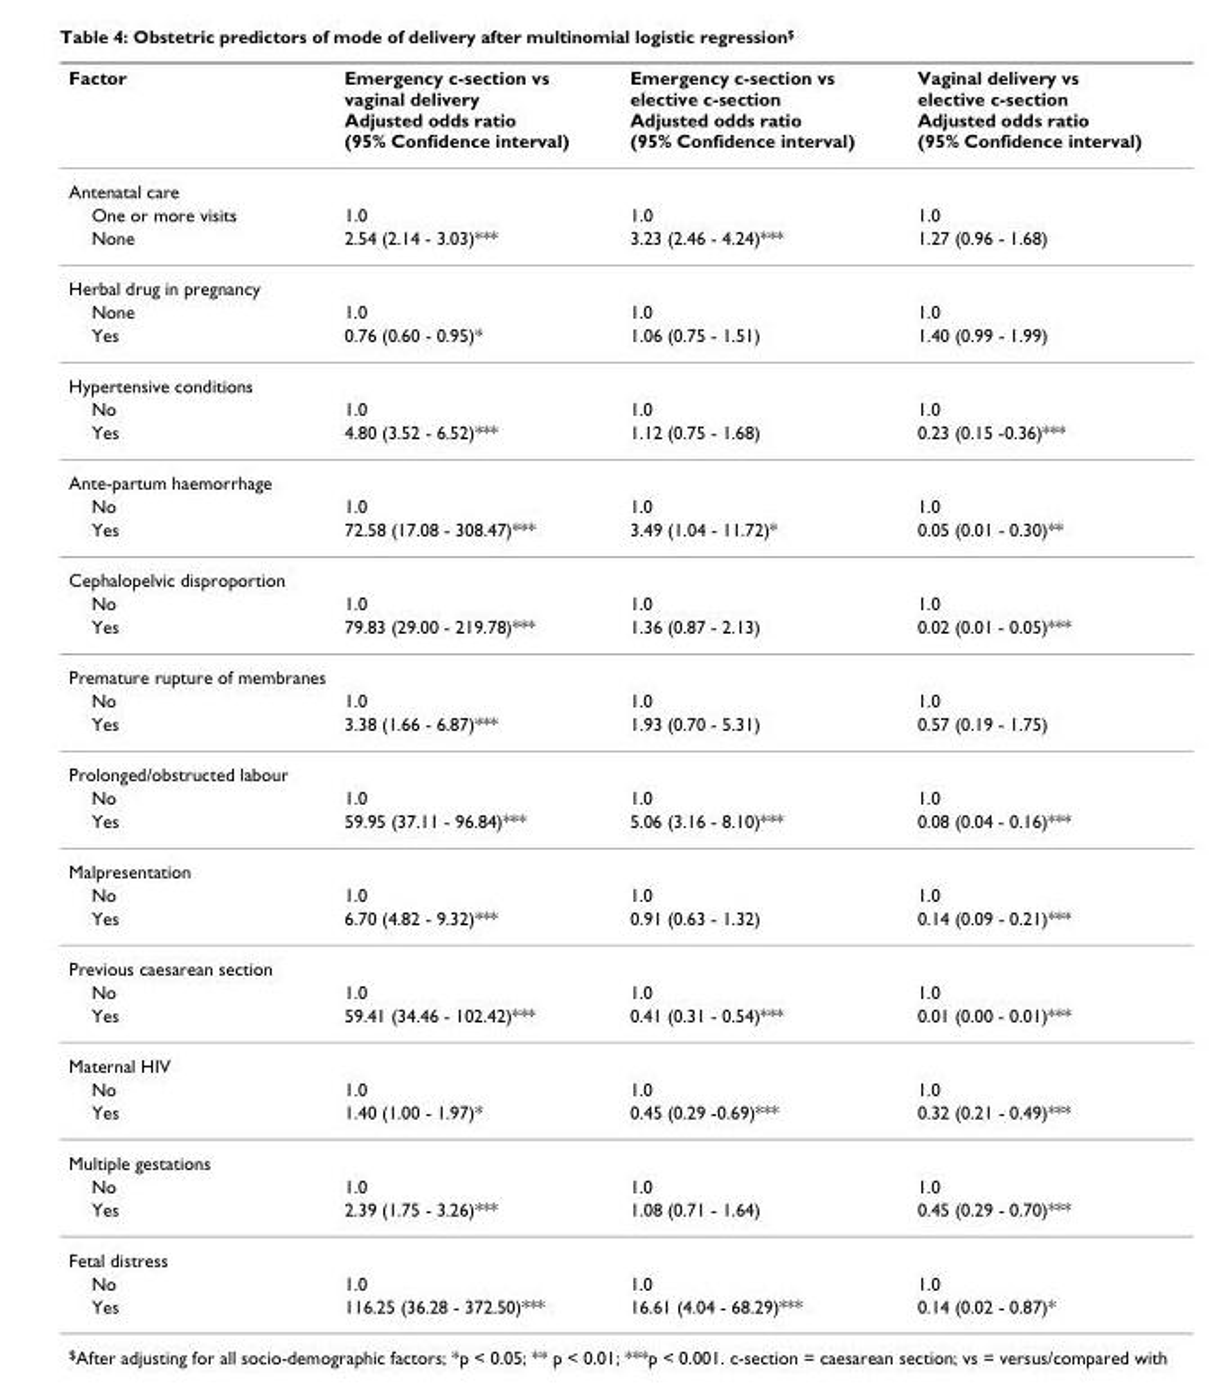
<table><thead><tr><td>Factor</td><td>Emergency c-section vs vaginal delivery Adjusted odds ratio (95% Confidence interval)</td><td>Emergency c-section vs elective c-section Adjusted odds ratio (95% Confidence interval)</td><td>Vaginal delivery vs elective c-section Adjusted odds ratio (95% Confidence interval)</td></tr></thead><tbody><tr><td colspan="4">Antenatal care</td></tr><tr><td>One or more visits</td><td>1.0</td><td>1.0</td><td>1.0</td></tr><tr><td>None</td><td>2.54 (2.14 - 3.03)***</td><td>3.23 (2.46 - 4.24)***</td><td>1.27 (0.96 - 1.68)</td></tr><tr><td colspan="4">Herbal drug in pregnancy</td></tr><tr><td>None</td><td>1.0</td><td>1.0</td><td>1.0</td></tr><tr><td>Yes</td><td>0.76 (0.60 - 0.95)*</td><td>1.06 (0.75 - 1.51)</td><td>1.40 (0.99 - 1.99)</td></tr><tr><td colspan="4">Hypertensive conditions</td></tr><tr><td>No</td><td>1.0</td><td>1.0</td><td>1.0</td></tr><tr><td>Yes</td><td>4.80 (3.52 - 6.52)***</td><td>1.12 (0.75 - 1.68)</td><td>0.23 (0.15 -0.36)***</td></tr><tr><td colspan="4">Ante-partum haemorrhage</td></tr><tr><td>No</td><td>1.0</td><td>1.0</td><td>1.0</td></tr><tr><td>Yes</td><td>72.58 (17.08 - 308.47)***</td><td>3.49 (1.04 - 11.72)*</td><td>0.05 (0.01 - 0.30)**</td></tr><tr><td colspan="4">Cephalopelvic disproportion</td></tr><tr><td>No</td><td>1.0</td><td>1.0</td><td>1.0</td></tr><tr><td>Yes</td><td>79.83 (29.00 - 219.78)***</td><td>1.36 (0.87 - 2.13)</td><td>0.02 (0.01 - 0.05)***</td></tr><tr><td colspan="4">Premature rupture of membranes</td></tr><tr><td>No</td><td>1.0</td><td>1.0</td><td>1.0</td></tr><tr><td>Yes</td><td>3.38 (1.66 - 6.87)***</td><td>1.93 (0.70 - 5.31)</td><td>0.57 (0.19 - 1.75)</td></tr><tr><td colspan="4">Prolonged/obstructed labour</td></tr><tr><td>No</td><td>1.0</td><td>1.0</td><td>1.0</td></tr><tr><td>Yes</td><td>59.95 (37.11 - 96.84)***</td><td>5.06 (3.16 - 8.10)***</td><td>0.08 (0.04 - 0.16)***</td></tr><tr><td colspan="4">Malpresentation</td></tr><tr><td>No</td><td>1.0</td><td>1.0</td><td>1.0</td></tr><tr><td>Yes</td><td>6.70 (4.82 - 9.32)***</td><td>0.91 (0.63 - 1.32)</td><td>0.14 (0.09 - 0.21)***</td></tr><tr><td colspan="4">Previous caesarean section</td></tr><tr><td>No</td><td>1.0</td><td>1.0</td><td>1.0</td></tr><tr><td>Yes</td><td>59.41 (34.46 - 102.42)***</td><td>0.41 (0.31 - 0.54)***</td><td>0.01 (0.00 - 0.01)***</td></tr><tr><td colspan="4">Maternal HIV</td></tr><tr><td>No</td><td>1.0</td><td>1.0</td><td>1.0</td></tr><tr><td>Yes</td><td>1.40 (1.00 - 1.97)*</td><td>0.45 (0.29 -0.69)***</td><td>0.32 (0.21 - 0.49)***</td></tr><tr><td colspan="4">Multiple gestations</td></tr><tr><td>No</td><td>1.0</td><td>1.0</td><td>1.0</td></tr><tr><td>Yes</td><td>2.39 (1.75 - 3.26)***</td><td>1.08 (0.71 - 1.64)</td><td>0.45 (0.29 - 0.70)***</td></tr><tr><td colspan="4">Fetal distress</td></tr><tr><td>No</td><td>1.0</td><td>1.0</td><td>1.0</td></tr><tr><td>Yes</td><td>116.25 (36.28 - 372.50)***</td><td>16.61 (4.04 - 68.29)***</td><td>0.14 (0.02 - 0.87)*</td></tr></tbody></table>